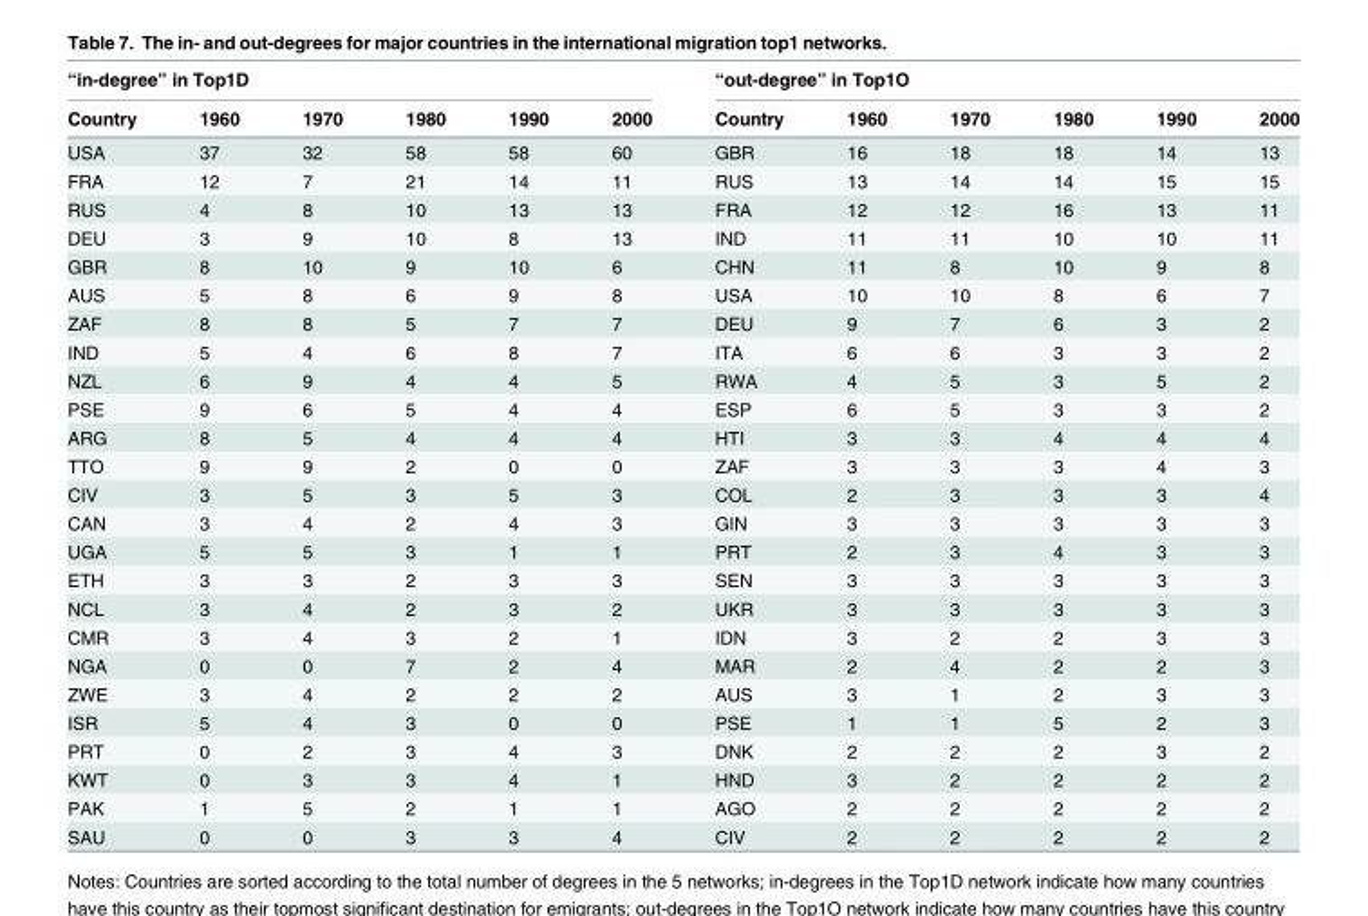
<table><thead><tr><td colspan="6">“in-degree” in Top1D</td><td colspan="6">“out-degree” in Top1O</td></tr><tr><td>Country</td><td>1960</td><td>1970</td><td>1980</td><td>1990</td><td>2000</td><td>Country</td><td>1960</td><td>1970</td><td>1980</td><td>1990</td><td>2000</td></tr></thead><tbody><tr><td>USA</td><td>37</td><td>32</td><td>58</td><td>58</td><td>60</td><td>GBR</td><td>16</td><td>18</td><td>18</td><td>14</td><td>13</td></tr><tr><td>FRA</td><td>12</td><td>7</td><td>21</td><td>14</td><td>11</td><td>RUS</td><td>13</td><td>14</td><td>14</td><td>15</td><td>15</td></tr><tr><td>RUS</td><td>4</td><td>8</td><td>10</td><td>13</td><td>13</td><td>FRA</td><td>12</td><td>12</td><td>16</td><td>13</td><td>11</td></tr><tr><td>DEU</td><td>3</td><td>9</td><td>10</td><td>8</td><td>13</td><td>IND</td><td>11</td><td>11</td><td>10</td><td>10</td><td>11</td></tr><tr><td>GBR</td><td>8</td><td>10</td><td>9</td><td>10</td><td>6</td><td>CHN</td><td>11</td><td>8</td><td>10</td><td>9</td><td>8</td></tr><tr><td>AUS</td><td>5</td><td>8</td><td>6</td><td>9</td><td>8</td><td>USA</td><td>10</td><td>10</td><td>8</td><td>6</td><td>7</td></tr><tr><td>ZAF</td><td>8</td><td>8</td><td>5</td><td>7</td><td>7</td><td>DEU</td><td>9</td><td>7</td><td>6</td><td>3</td><td>2</td></tr><tr><td>IND</td><td>5</td><td>4</td><td>6</td><td>8</td><td>7</td><td>ITA</td><td>6</td><td>6</td><td>3</td><td>3</td><td>2</td></tr><tr><td>NZL</td><td>6</td><td>9</td><td>4</td><td>4</td><td>5</td><td>RWA</td><td>4</td><td>5</td><td>3</td><td>5</td><td>2</td></tr><tr><td>PSE</td><td>9</td><td>6</td><td>5</td><td>4</td><td>4</td><td>ESP</td><td>6</td><td>5</td><td>3</td><td>3</td><td>2</td></tr><tr><td>ARG</td><td>8</td><td>5</td><td>4</td><td>4</td><td>4</td><td>HTI</td><td>3</td><td>3</td><td>4</td><td>4</td><td>4</td></tr><tr><td>TTO</td><td>9</td><td>9</td><td>2</td><td>0</td><td>0</td><td>ZAF</td><td>3</td><td>3</td><td>3</td><td>4</td><td>3</td></tr><tr><td>CIV</td><td>3</td><td>5</td><td>3</td><td>5</td><td>3</td><td>COL</td><td>2</td><td>3</td><td>3</td><td>3</td><td>4</td></tr><tr><td>CAN</td><td>3</td><td>4</td><td>2</td><td>4</td><td>3</td><td>GIN</td><td>3</td><td>3</td><td>3</td><td>3</td><td>3</td></tr><tr><td>UGA</td><td>5</td><td>5</td><td>3</td><td>1</td><td>1</td><td>PRT</td><td>2</td><td>3</td><td>4</td><td>3</td><td>3</td></tr><tr><td>ETH</td><td>3</td><td>3</td><td>2</td><td>3</td><td>3</td><td>SEN</td><td>3</td><td>3</td><td>3</td><td>3</td><td>3</td></tr><tr><td>NCL</td><td>3</td><td>4</td><td>2</td><td>3</td><td>2</td><td>UKR</td><td>3</td><td>3</td><td>3</td><td>3</td><td>3</td></tr><tr><td>CMR</td><td>3</td><td>4</td><td>3</td><td>2</td><td>1</td><td>IDN</td><td>3</td><td>2</td><td>2</td><td>3</td><td>3</td></tr><tr><td>NGA</td><td>0</td><td>0</td><td>7</td><td>2</td><td>4</td><td>MAR</td><td>2</td><td>4</td><td>2</td><td>2</td><td>3</td></tr><tr><td>ZWE</td><td>3</td><td>4</td><td>2</td><td>2</td><td>2</td><td>AUS</td><td>3</td><td>1</td><td>2</td><td>3</td><td>3</td></tr><tr><td>ISR</td><td>5</td><td>4</td><td>3</td><td>0</td><td>0</td><td>PSE</td><td>1</td><td>1</td><td>5</td><td>2</td><td>3</td></tr><tr><td>PRT</td><td>0</td><td>2</td><td>3</td><td>4</td><td>3</td><td>DNK</td><td>2</td><td>2</td><td>2</td><td>3</td><td>2</td></tr><tr><td>KWT</td><td>0</td><td>3</td><td>3</td><td>4</td><td>1</td><td>HND</td><td>3</td><td>2</td><td>2</td><td>2</td><td>2</td></tr><tr><td>PAK</td><td>1</td><td>5</td><td>2</td><td>1</td><td>1</td><td>AGO</td><td>2</td><td>2</td><td>2</td><td>2</td><td>2</td></tr><tr><td>SAU</td><td>0</td><td>0</td><td>3</td><td>3</td><td>4</td><td>CIV</td><td>2</td><td>2</td><td>2</td><td>2</td><td>2</td></tr></tbody></table>